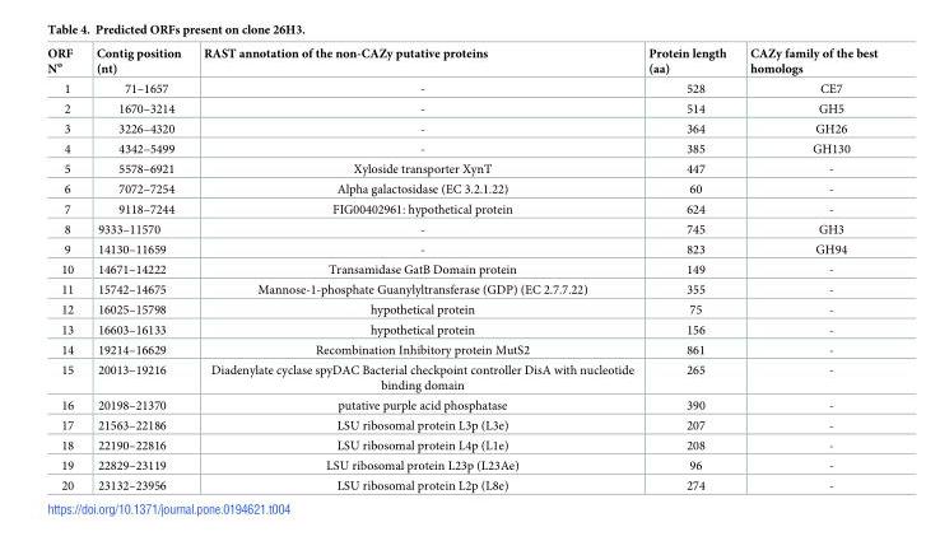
<table><thead><tr><td>ORF N<sup>o</sup></td><td>Contig position (nt)</td><td>RAST annotation of the non-CAZy putative proteins</td><td>Protein length (aa)</td><td>CAZy family of the best homologs</td></tr></thead><tbody><tr><td>1</td><td>71–1657</td><td>-</td><td>528</td><td>CE7</td></tr><tr><td>2</td><td>1670–3214</td><td>-</td><td>514</td><td>GH5</td></tr><tr><td>3</td><td>3226–4320</td><td>-</td><td>364</td><td>GH26</td></tr><tr><td>4</td><td>4342–5499</td><td>-</td><td>385</td><td>GH130</td></tr><tr><td>5</td><td>5578–6921</td><td>Xyloside transporter XynT</td><td>447</td><td>-</td></tr><tr><td>6</td><td>7072–7254</td><td>Alpha galactosidase (EC 3.2.1.22)</td><td>60</td><td>-</td></tr><tr><td>7</td><td>9118–7244</td><td>FIG00402961: hypothetical protein</td><td>624</td><td>-</td></tr><tr><td>8</td><td>9333–11570</td><td>-</td><td>745</td><td>GH3</td></tr><tr><td>9</td><td>14130–11659</td><td>-</td><td>823</td><td>GH94</td></tr><tr><td>10</td><td>14671–14222</td><td>Transamidase GatB Domain protein</td><td>149</td><td>-</td></tr><tr><td>11</td><td>15742–14675</td><td>Mannose-1-phosphate Guanylyltransferase (GDP) (EC 2.7.7.22)</td><td>355</td><td>-</td></tr><tr><td>12</td><td>16025–15798</td><td>hypothetical protein</td><td>75</td><td>-</td></tr><tr><td>13</td><td>16603–16133</td><td>hypothetical protein</td><td>156</td><td>-</td></tr><tr><td>14</td><td>19214–16629</td><td>Recombination Inhibitory protein MutS2</td><td>861</td><td>-</td></tr><tr><td>15</td><td>20013–19216</td><td>Diadenylate cyclase spyDAC Bacterial checkpoint controller DisA with nucleotide binding domain</td><td>265</td><td>-</td></tr><tr><td>16</td><td>20198–21370</td><td>putative purple acid phosphatase</td><td>390</td><td>-</td></tr><tr><td>17</td><td>21563–22186</td><td>LSU ribosomal protein L3p (L3e)</td><td>207</td><td>-</td></tr><tr><td>18</td><td>22190–22816</td><td>LSU ribosomal protein L4p (L1e)</td><td>208</td><td>-</td></tr><tr><td>19</td><td>22829–23119</td><td>LSU ribosomal protein L23p (L23Ae)</td><td>96</td><td>-</td></tr><tr><td>20</td><td>23132–23956</td><td>LSU ribosomal protein L2p (L8e)</td><td>274</td><td>-</td></tr></tbody></table>